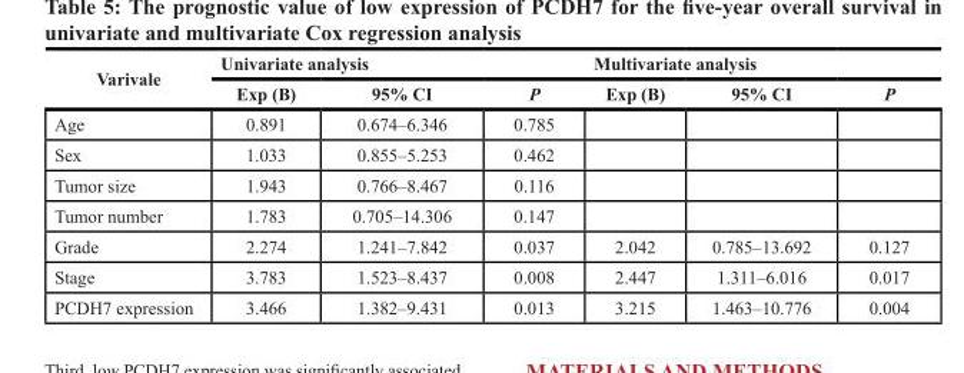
<table><thead><tr><td rowspan="2">Varivale</td><td colspan="3">Univariate analysis</td><td colspan="3">Multivariate analysis</td></tr><tr><td>Exp (B)</td><td>95% CI</td><td>P</td><td>Exp (B)</td><td>95% CI</td><td>P</td></tr></thead><tbody><tr><td>Age</td><td>0.891</td><td>0.674–6.346</td><td>0.785</td><td></td><td></td><td></td></tr><tr><td>Sex</td><td>1.033</td><td>0.855–5.253</td><td>0.462</td><td></td><td></td><td></td></tr><tr><td>Tumor size</td><td>1.943</td><td>0.766–8.467</td><td>0.116</td><td></td><td></td><td></td></tr><tr><td>Tumor number</td><td>1.783</td><td>0.705–14.306</td><td>0.147</td><td></td><td></td><td></td></tr><tr><td>Grade</td><td>2.274</td><td>1.241–7.842</td><td>0.037</td><td>2.042</td><td>0.785–13.692</td><td>0.127</td></tr><tr><td>Stage</td><td>3.783</td><td>1.523–8.437</td><td>0.008</td><td>2.447</td><td>1.311–6.016</td><td>0.017</td></tr><tr><td>PCDH7 expression</td><td>3.466</td><td>1.382–9.431</td><td>0.013</td><td>3.215</td><td>1.463–10.776</td><td>0.004</td></tr></tbody></table>